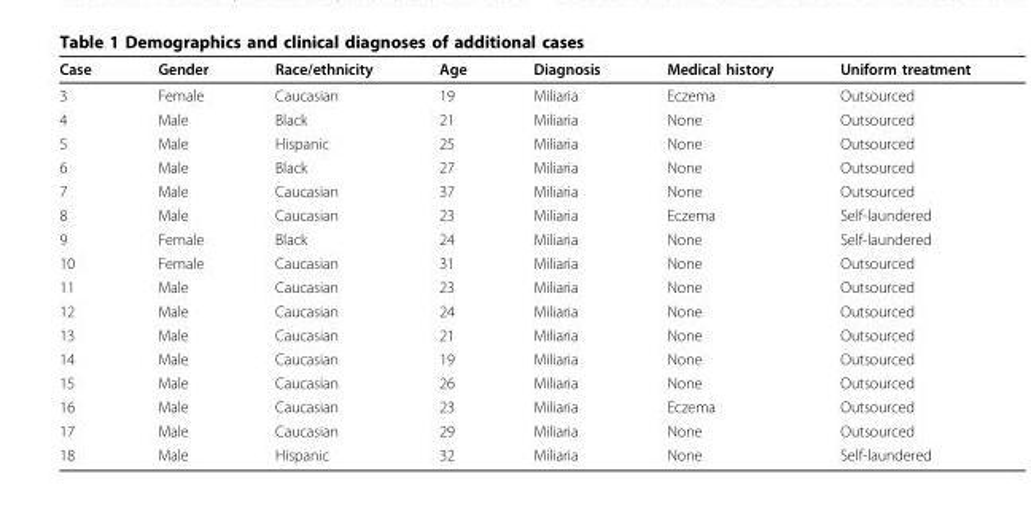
<table><thead><tr><td>Case</td><td>Gender</td><td>Race/ethnicity</td><td>Age</td><td>Diagnosis</td><td>Medical history</td><td>Uniform treatment</td></tr></thead><tbody><tr><td>3</td><td>Female</td><td>Caucasian</td><td>19</td><td>Miliaria</td><td>Eczema</td><td>Outsourced</td></tr><tr><td>4</td><td>Male</td><td>Black</td><td>21</td><td>Miliaria</td><td>None</td><td>Outsourced</td></tr><tr><td>5</td><td>Male</td><td>Hispanic</td><td>25</td><td>Miliaria</td><td>None</td><td>Outsourced</td></tr><tr><td>6</td><td>Male</td><td>Black</td><td>27</td><td>Miliaria</td><td>None</td><td>Outsourced</td></tr><tr><td>7</td><td>Male</td><td>Caucasian</td><td>37</td><td>Miliaria</td><td>None</td><td>Outsourced</td></tr><tr><td>8</td><td>Male</td><td>Caucasian</td><td>23</td><td>Miliaria</td><td>Eczema</td><td>Self-laundered</td></tr><tr><td>9</td><td>Female</td><td>Black</td><td>24</td><td>Miliaria</td><td>None</td><td>Self-laundered</td></tr><tr><td>10</td><td>Female</td><td>Caucasian</td><td>31</td><td>Miliaria</td><td>None</td><td>Outsourced</td></tr><tr><td>11</td><td>Male</td><td>Caucasian</td><td>23</td><td>Miliaria</td><td>None</td><td>Outsourced</td></tr><tr><td>12</td><td>Male</td><td>Caucasian</td><td>24</td><td>Miliaria</td><td>None</td><td>Outsourced</td></tr><tr><td>13</td><td>Male</td><td>Caucasian</td><td>21</td><td>Miliaria</td><td>None</td><td>Outsourced</td></tr><tr><td>14</td><td>Male</td><td>Caucasian</td><td>19</td><td>Miliaria</td><td>None</td><td>Outsourced</td></tr><tr><td>15</td><td>Male</td><td>Caucasian</td><td>26</td><td>Miliaria</td><td>None</td><td>Outsourced</td></tr><tr><td>16</td><td>Male</td><td>Caucasian</td><td>23</td><td>Miliaria</td><td>Eczema</td><td>Outsourced</td></tr><tr><td>17</td><td>Male</td><td>Caucasian</td><td>29</td><td>Miliaria</td><td>None</td><td>Outsourced</td></tr><tr><td>18</td><td>Male</td><td>Hispanic</td><td>32</td><td>Miliaria</td><td>None</td><td>Self-laundered</td></tr></tbody></table>